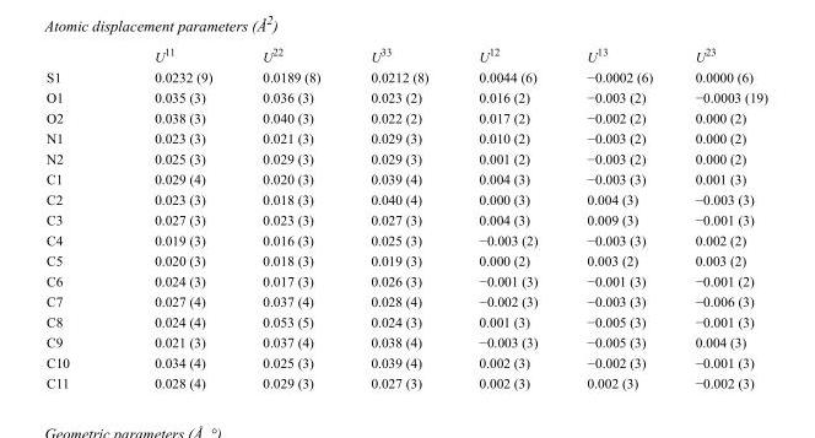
<table><thead><tr><td></td><td>U<sup>11</sup></td><td>U<sup>22</sup></td><td>U<sup>33</sup></td><td>U<sup>12</sup></td><td>U<sup>13</sup></td><td>U<sup>23</sup></td></tr></thead><tbody><tr><td>S1</td><td>0.0232 (9)</td><td>0.0189 (8)</td><td>0.0212 (8)</td><td>0.0044 (6)</td><td>−0.0002 (6)</td><td>0.0000 (6)</td></tr><tr><td>O1</td><td>0.035 (3)</td><td>0.036 (3)</td><td>0.023 (2)</td><td>0.016 (2)</td><td>−0.003 (2)</td><td>−0.0003 (19)</td></tr><tr><td>O2</td><td>0.038 (3)</td><td>0.040 (3)</td><td>0.022 (2)</td><td>0.017 (2)</td><td>−0.002 (2)</td><td>0.000 (2)</td></tr><tr><td>N1</td><td>0.023 (3)</td><td>0.021 (3)</td><td>0.029 (3)</td><td>0.010 (2)</td><td>−0.003 (2)</td><td>0.000 (2)</td></tr><tr><td>N2</td><td>0.025 (3)</td><td>0.029 (3)</td><td>0.029 (3)</td><td>0.001 (2)</td><td>−0.003 (2)</td><td>0.000 (2)</td></tr><tr><td>C1</td><td>0.029 (4)</td><td>0.020 (3)</td><td>0.039 (4)</td><td>0.004 (3)</td><td>−0.003 (3)</td><td>0.001 (3)</td></tr><tr><td>C2</td><td>0.023 (3)</td><td>0.018 (3)</td><td>0.040 (4)</td><td>0.000 (3)</td><td>0.004 (3)</td><td>−0.003 (3)</td></tr><tr><td>C3</td><td>0.027 (3)</td><td>0.023 (3)</td><td>0.027 (3)</td><td>0.004 (3)</td><td>0.009 (3)</td><td>−0.001 (3)</td></tr><tr><td>C4</td><td>0.019 (3)</td><td>0.016 (3)</td><td>0.025 (3)</td><td>−0.003 (2)</td><td>−0.003 (3)</td><td>0.002 (2)</td></tr><tr><td>C5</td><td>0.020 (3)</td><td>0.018 (3)</td><td>0.019 (3)</td><td>0.000 (2)</td><td>0.003 (2)</td><td>0.003 (2)</td></tr><tr><td>C6</td><td>0.024 (3)</td><td>0.017 (3)</td><td>0.026 (3)</td><td>−0.001 (3)</td><td>−0.001 (3)</td><td>−0.001 (2)</td></tr><tr><td>C7</td><td>0.027 (4)</td><td>0.037 (4)</td><td>0.028 (4)</td><td>−0.002 (3)</td><td>−0.003 (3)</td><td>−0.006 (3)</td></tr><tr><td>C8</td><td>0.024 (4)</td><td>0.053 (5)</td><td>0.024 (3)</td><td>0.001 (3)</td><td>−0.005 (3)</td><td>−0.001 (3)</td></tr><tr><td>C9</td><td>0.021 (3)</td><td>0.037 (4)</td><td>0.038 (4)</td><td>−0.003 (3)</td><td>−0.005 (3)</td><td>0.004 (3)</td></tr><tr><td>C10</td><td>0.034 (4)</td><td>0.025 (3)</td><td>0.039 (4)</td><td>0.002 (3)</td><td>−0.002 (3)</td><td>−0.001 (3)</td></tr><tr><td>C11</td><td>0.028 (4)</td><td>0.029 (3)</td><td>0.027 (3)</td><td>0.002 (3)</td><td>0.002 (3)</td><td>−0.002 (3)</td></tr></tbody></table>